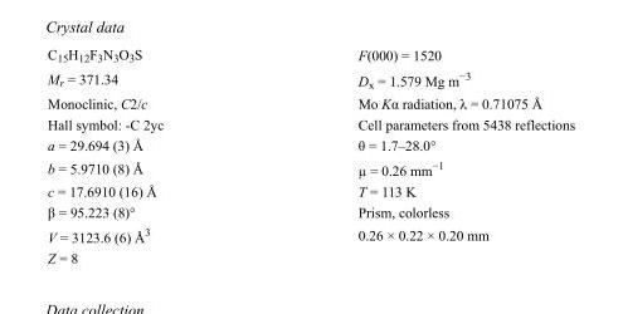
<table><tbody><tr><td>C<sub>15</sub>H<sub>12</sub>F<sub>3</sub>N<sub>3</sub>O<sub>3</sub>S</td><td>F(000) = 1520</td></tr><tr><td>M<sub>r</sub> = 371.34</td><td>D<sub>x</sub> = 1.579 Mg m<sup>−3</sup></td></tr><tr><td>Monoclinic, C2/c</td><td>Mo Kα radiation, λ = 0.71075 Å</td></tr><tr><td>Hall symbol: -C 2yc</td><td>Cell parameters from 5438 reflections</td></tr><tr><td>a = 29.694 (3) Å</td><td>θ = 1.7–28.0°</td></tr><tr><td>b = 5.9710 (8) Å</td><td>µ = 0.26 mm<sup>−1</sup></td></tr><tr><td>c = 17.6910 (16) Å</td><td>T = 113 K</td></tr><tr><td>β = 95.223 (8)°</td><td>Prism, colorless</td></tr><tr><td>V = 3123.6 (6) Å<sup>3</sup></td><td>0.26 × 0.22 × 0.20 mm</td></tr><tr><td>Z = 8</td><td></td></tr></tbody></table>